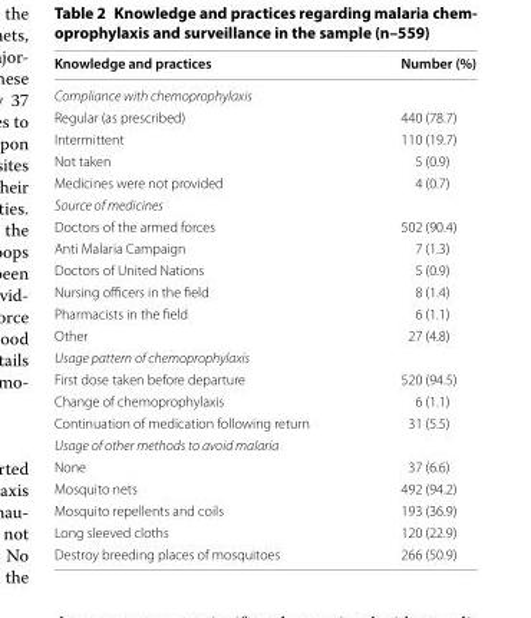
<table><thead><tr><td>Knowledge and practices</td><td>Number (%)</td></tr></thead><tbody><tr><td colspan="2">Compliance with chemoprophylaxis</td></tr><tr><td>Regular (as prescribed)</td><td>440 (78.7)</td></tr><tr><td>Intermittent</td><td>110 (19.7)</td></tr><tr><td>Not taken</td><td>5 (0.9)</td></tr><tr><td>Medicines were not provided</td><td>4 (0.7)</td></tr><tr><td colspan="2">Source of medicines</td></tr><tr><td>Doctors of the armed forces</td><td>502 (90.4)</td></tr><tr><td>Anti Malaria Campaign</td><td>7 (1.3)</td></tr><tr><td>Doctors of United Nations</td><td>5 (0.9)</td></tr><tr><td>Nursing officers in the field</td><td>8 (1.4)</td></tr><tr><td>Pharmacists in the field</td><td>6 (1.1)</td></tr><tr><td>Other</td><td>27 (4.8)</td></tr><tr><td colspan="2">Usage pattern of chemoprophylaxis</td></tr><tr><td>First dose taken before departure</td><td>520 (94.5)</td></tr><tr><td>Change of chemoprophylaxis</td><td>6 (1.1)</td></tr><tr><td>Continuation of medication following return</td><td>31 (5.5)</td></tr><tr><td colspan="2">Usage of other methods to avoid malaria</td></tr><tr><td>None</td><td>37 (6.6)</td></tr><tr><td>Mosquito nets</td><td>492 (94.2)</td></tr><tr><td>Mosquito repellents and coils</td><td>193 (36.9)</td></tr><tr><td>Long sleeved cloths</td><td>120 (22.9)</td></tr><tr><td>Destroy breeding places of mosquitoes</td><td>266 (50.9)</td></tr></tbody></table>